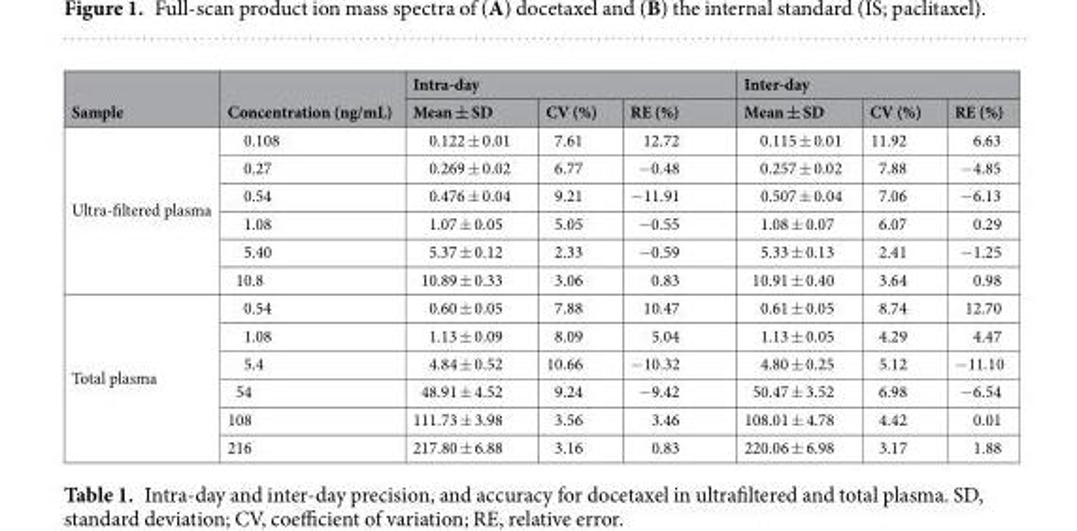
<table><thead><tr><td rowspan="2">Sample</td><td rowspan="2">Concentration (ng/mL)</td><td colspan="3">Intra-day</td><td colspan="3">Inter-day</td></tr><tr><td>Mean ± SD</td><td>CV (%)</td><td>RE (%)</td><td>Mean ± SD</td><td>CV (%)</td><td>RE (%)</td></tr></thead><tbody><tr><td rowspan="6">Ultra-filtered plasma</td><td>0.108</td><td>0.122 ± 0.01</td><td>7.61</td><td>12.72</td><td>0.115 ± 0.01</td><td>11.92</td><td>6.63</td></tr><tr><td>0.27</td><td>0.269 ± 0.02</td><td>6.77</td><td>−0.48</td><td>0.257 ± 0.02</td><td>7.88</td><td>−4.85</td></tr><tr><td>0.54</td><td>0.476 ± 0.04</td><td>9.21</td><td>−11.91</td><td>0.507 ± 0.04</td><td>7.06</td><td>−6.13</td></tr><tr><td>1.08</td><td>1.07 ± 0.05</td><td>5.05</td><td>−0.55</td><td>1.08 ± 0.07</td><td>6.07</td><td>0.29</td></tr><tr><td>5.40</td><td>5.37 ± 0.12</td><td>2.33</td><td>−0.59</td><td>5.33 ± 0.13</td><td>2.41</td><td>−1.25</td></tr><tr><td>10.8</td><td>10.89 ± 0.33</td><td>3.06</td><td>0.83</td><td>10.91 ± 0.40</td><td>3.64</td><td>0.98</td></tr><tr><td rowspan="6">Total plasma</td><td>0.54</td><td>0.60 ± 0.05</td><td>7.88</td><td>10.47</td><td>0.61 ± 0.05</td><td>8.74</td><td>12.70</td></tr><tr><td>1.08</td><td>1.13 ± 0.09</td><td>8.09</td><td>5.04</td><td>1.13 ± 0.05</td><td>4.29</td><td>4.47</td></tr><tr><td>5.4</td><td>4.84 ± 0.52</td><td>10.66</td><td>−10.32</td><td>4.80 ± 0.25</td><td>5.12</td><td>−11.10</td></tr><tr><td>54</td><td>48.91 ± 4.52</td><td>9.24</td><td>−9.42</td><td>50.47 ± 3.52</td><td>6.98</td><td>−6.54</td></tr><tr><td>108</td><td>111.73 ± 3.98</td><td>3.56</td><td>3.46</td><td>108.01 ± 4.78</td><td>4.42</td><td>0.01</td></tr><tr><td>216</td><td>217.80 ± 6.88</td><td>3.16</td><td>0.83</td><td>220.06 ± 6.98</td><td>3.17</td><td>1.88</td></tr></tbody></table>